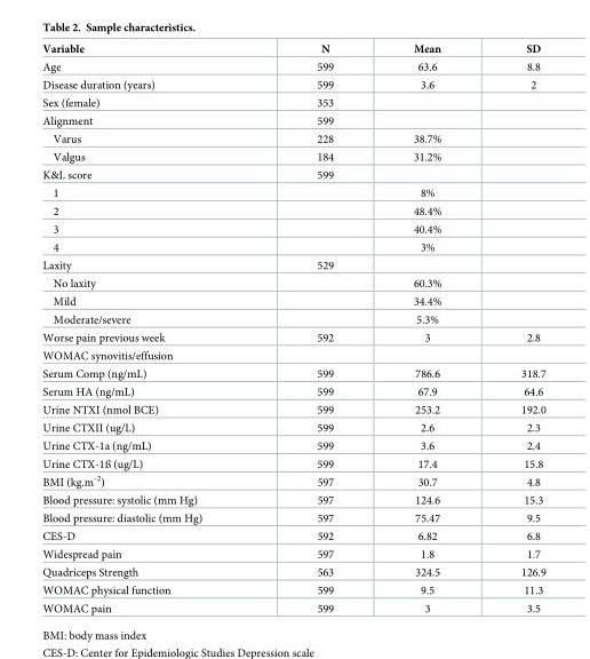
<table><thead><tr><td>Variable</td><td>N</td><td>Mean</td><td>SD</td></tr></thead><tbody><tr><td>Age</td><td>599</td><td>63.6</td><td>8.8</td></tr><tr><td>Disease duration (years)</td><td>599</td><td>3.6</td><td>2</td></tr><tr><td>Sex (female)</td><td>353</td><td></td><td></td></tr><tr><td>Alignment</td><td>599</td><td></td><td></td></tr><tr><td>Varus</td><td>228</td><td>38.7%</td><td></td></tr><tr><td>Valgus</td><td>184</td><td>31.2%</td><td></td></tr><tr><td>K&amp;L score</td><td>599</td><td></td><td></td></tr><tr><td>1</td><td></td><td>8%</td><td></td></tr><tr><td>2</td><td></td><td>48.4%</td><td></td></tr><tr><td>3</td><td></td><td>40.4%</td><td></td></tr><tr><td>4</td><td></td><td>3%</td><td></td></tr><tr><td>Laxity</td><td>529</td><td></td><td></td></tr><tr><td>No laxity</td><td></td><td>60.3%</td><td></td></tr><tr><td>Mild</td><td></td><td>34.4%</td><td></td></tr><tr><td>Moderate/severe</td><td></td><td>5.3%</td><td></td></tr><tr><td>Worse pain previous week</td><td>592</td><td>3</td><td>2.8</td></tr><tr><td colspan="4">WOMAC synovitis/effusion</td></tr><tr><td>Serum Comp (ng/mL)</td><td>599</td><td>786.6</td><td>318.7</td></tr><tr><td>Serum HA (ng/mL)</td><td>599</td><td>67.9</td><td>64.6</td></tr><tr><td>Urine NTXI (nmol BCE)</td><td>599</td><td>253.2</td><td>192.0</td></tr><tr><td>Urine CTXII (ug/L)</td><td>599</td><td>2.6</td><td>2.3</td></tr><tr><td>Urine CTX-1a (ng/mL)</td><td>599</td><td>3.6</td><td>2.4</td></tr><tr><td>Urine CTX-1ß (ug/L)</td><td>599</td><td>17.4</td><td>15.8</td></tr><tr><td>BMI (kg.m<sup>-2</sup>)</td><td>597</td><td>30.7</td><td>4.8</td></tr><tr><td>Blood pressure: systolic (mm Hg)</td><td>597</td><td>124.6</td><td>15.3</td></tr><tr><td>Blood pressure: diastolic (mm Hg)</td><td>597</td><td>75.47</td><td>9.5</td></tr><tr><td>CES-D</td><td>592</td><td>6.82</td><td>6.8</td></tr><tr><td>Widespread pain</td><td>597</td><td>1.8</td><td>1.7</td></tr><tr><td>Quadriceps Strength</td><td>563</td><td>324.5</td><td>126.9</td></tr><tr><td>WOMAC physical function</td><td>599</td><td>9.5</td><td>11.3</td></tr><tr><td>WOMAC pain</td><td>599</td><td>3</td><td>3.5</td></tr></tbody></table>